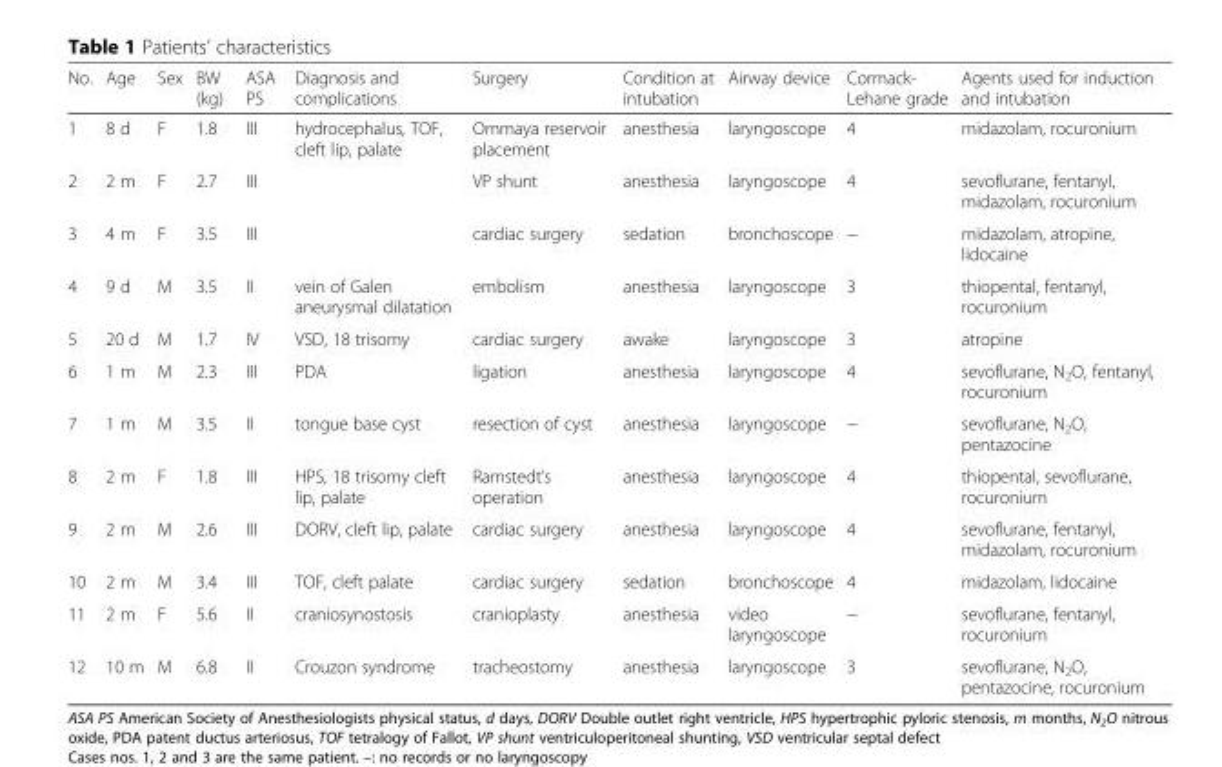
<table><thead><tr><td>No.</td><td>Age</td><td>Sex</td><td>BW (kg)</td><td>ASA PS</td><td>Diagnosis and complications</td><td>Surgery</td><td>Condition at intubation</td><td>Airway device</td><td>Cormack- Lehane grade</td><td>Agents used for induction and intubation</td></tr></thead><tbody><tr><td>1</td><td>8 d</td><td>F</td><td>1.8</td><td>III</td><td>hydrocephalus, TOF, cleft lip, palate</td><td>Ommaya reservoir placement</td><td>anesthesia</td><td>laryngoscope</td><td>4</td><td>midazolam, rocuronium</td></tr><tr><td>2</td><td>2 m</td><td>F</td><td>2.7</td><td>III</td><td></td><td>VP shunt</td><td>anesthesia</td><td>laryngoscope</td><td>4</td><td>sevoflurane, fentanyl, midazolam, rocuronium</td></tr><tr><td>3</td><td>4 m</td><td>F</td><td>3.5</td><td>III</td><td></td><td>cardiac surgery</td><td>sedation</td><td>bronchoscope</td><td>−</td><td>midazolam, atropine, lidocaine</td></tr><tr><td>4</td><td>9 d</td><td>M</td><td>3.5</td><td>II</td><td>vein of Galen aneurysmal dilatation</td><td>embolism</td><td>anesthesia</td><td>laryngoscope</td><td>3</td><td>thiopental, fentanyl, rocuronium</td></tr><tr><td>5</td><td>20 d</td><td>M</td><td>1.7</td><td>IV</td><td>VSD, 18 trisomy</td><td>cardiac surgery</td><td>awake</td><td>laryngoscope</td><td>3</td><td>atropine</td></tr><tr><td>6</td><td>1 m</td><td>M</td><td>2.3</td><td>III</td><td>PDA</td><td>ligation</td><td>anesthesia</td><td>laryngoscope</td><td>4</td><td>sevoflurane, N<sub>2</sub>O, fentanyl, rocuronium</td></tr><tr><td>7</td><td>1 m</td><td>M</td><td>3.5</td><td>II</td><td>tongue base cyst</td><td>resection of cyst</td><td>anesthesia</td><td>laryngoscope</td><td>−</td><td>sevoflurane, N<sub>2</sub>O, pentazocine</td></tr><tr><td>8</td><td>2 m</td><td>F</td><td>1.8</td><td>III</td><td>HPS, 18 trisomy cleft lip, palate</td><td>Ramstedt’s operation</td><td>anesthesia</td><td>laryngoscope</td><td>4</td><td>thiopental, sevoflurane, rocuronium</td></tr><tr><td>9</td><td>2 m</td><td>M</td><td>2.6</td><td>III</td><td>DORV, cleft lip, palate</td><td>cardiac surgery</td><td>anesthesia</td><td>laryngoscope</td><td>4</td><td>sevoflurane, fentanyl, midazolam, rocuronium</td></tr><tr><td>10</td><td>2 m</td><td>M</td><td>3.4</td><td>III</td><td>TOF, cleft palate</td><td>cardiac surgery</td><td>sedation</td><td>bronchoscope</td><td>4</td><td>midazolam, lidocaine</td></tr><tr><td>11</td><td>2 m</td><td>F</td><td>5.6</td><td>II</td><td>craniosynostosis</td><td>cranioplasty</td><td>anesthesia</td><td>video laryngoscope</td><td>−</td><td>sevoflurane, fentanyl, rocuronium</td></tr><tr><td>12</td><td>10 m</td><td>M</td><td>6.8</td><td>II</td><td>Crouzon syndrome</td><td>tracheostomy</td><td>anesthesia</td><td>laryngoscope</td><td>3</td><td>sevoflurane, N<sub>2</sub>O, pentazocine, rocuronium</td></tr></tbody></table>